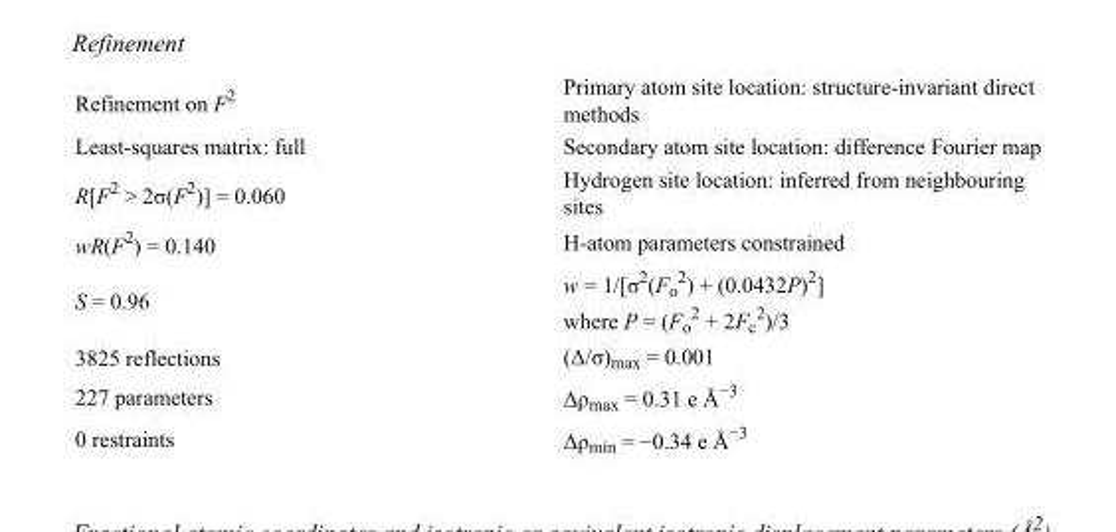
<table><tbody><tr><td>Refinement on F<sup>2</sup></td><td>Primary atom site location: structure-invariant direct methods</td></tr><tr><td>Least-squares matrix: full</td><td>Secondary atom site location: difference Fourier map</td></tr><tr><td>R[F<sup>2</sup> &gt; 2σ(F<sup>2</sup>)] = 0.060</td><td>Hydrogen site location: inferred from neighbouring sites</td></tr><tr><td>wR(F<sup>2</sup>) = 0.140</td><td>H-atom parameters constrained</td></tr><tr><td>S = 0.96</td><td>w = 1/[σ<sup>2</sup>(F<sub>o</sub> <sup>2</sup>) + (0.0432P)<sup>2</sup>] where P = (F<sub>o</sub> <sup>2</sup> + 2F<sub>c</sub> <sup>2</sup>)/3</td></tr><tr><td>3825 reflections</td><td>(Δ/σ)<sub>max</sub> = 0.001</td></tr><tr><td>227 parameters</td><td>Δρ<sub>max</sub> = 0.31 e Å<sup>−3</sup></td></tr><tr><td>0 restraints</td><td>Δρ<sub>min</sub> = −0.34 e Å<sup>−3</sup></td></tr></tbody></table>